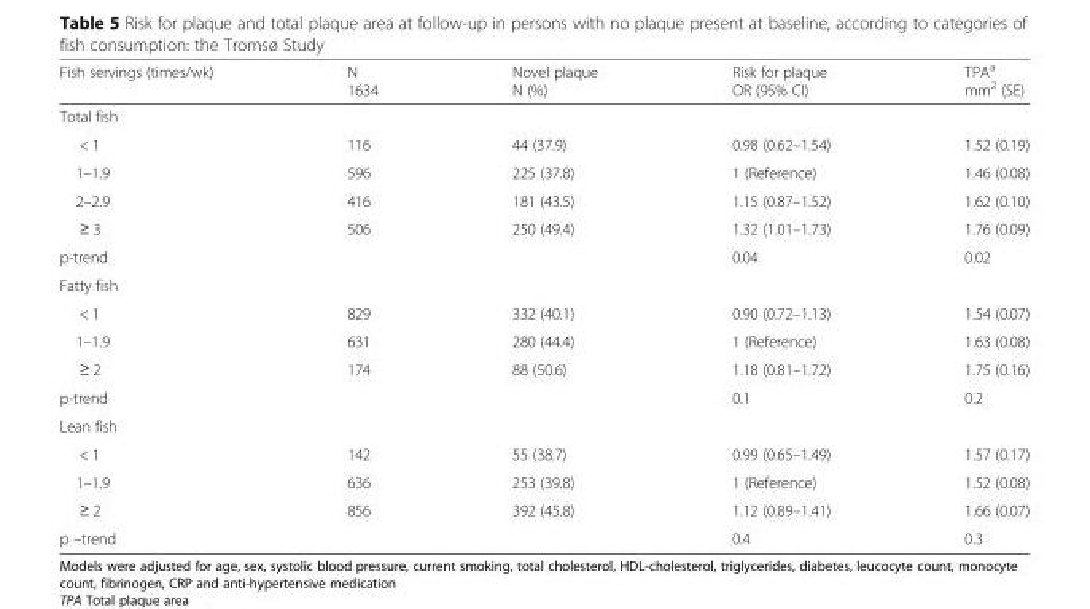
<table><thead><tr><td>Fish servings (times/wk)</td><td>N 1634</td><td>Novel plaque N (%)</td><td>Risk for plaque OR (95% CI)</td><td>TPA<sup>a</sup> mm<sup>2</sup> (SE)</td></tr></thead><tbody><tr><td colspan="5">Total fish</td></tr><tr><td>&lt; 1</td><td>116</td><td>44 (37.9)</td><td>0.98 (0.62–1.54)</td><td>1.52 (0.19)</td></tr><tr><td>1–1.9</td><td>596</td><td>225 (37.8)</td><td>1 (Reference)</td><td>1.46 (0.08)</td></tr><tr><td>2–2.9</td><td>416</td><td>181 (43.5)</td><td>1.15 (0.87–1.52)</td><td>1.62 (0.10)</td></tr><tr><td>≥ 3</td><td>506</td><td>250 (49.4)</td><td>1.32 (1.01–1.73)</td><td>1.76 (0.09)</td></tr><tr><td>p-trend</td><td></td><td></td><td>0.04</td><td>0.02</td></tr><tr><td colspan="5">Fatty fish</td></tr><tr><td>&lt; 1</td><td>829</td><td>332 (40.1)</td><td>0.90 (0.72–1.13)</td><td>1.54 (0.07)</td></tr><tr><td>1–1.9</td><td>631</td><td>280 (44.4)</td><td>1 (Reference)</td><td>1.63 (0.08)</td></tr><tr><td>≥ 2</td><td>174</td><td>88 (50.6)</td><td>1.18 (0.81–1.72)</td><td>1.75 (0.16)</td></tr><tr><td>p-trend</td><td></td><td></td><td>0.1</td><td>0.2</td></tr><tr><td colspan="5">Lean fish</td></tr><tr><td>&lt; 1</td><td>142</td><td>55 (38.7)</td><td>0.99 (0.65–1.49)</td><td>1.57 (0.17)</td></tr><tr><td>1–1.9</td><td>636</td><td>253 (39.8)</td><td>1 (Reference)</td><td>1.52 (0.08)</td></tr><tr><td>≥ 2</td><td>856</td><td>392 (45.8)</td><td>1.12 (0.89–1.41)</td><td>1.66 (0.07)</td></tr><tr><td>p –trend</td><td></td><td></td><td>0.4</td><td>0.3</td></tr></tbody></table>